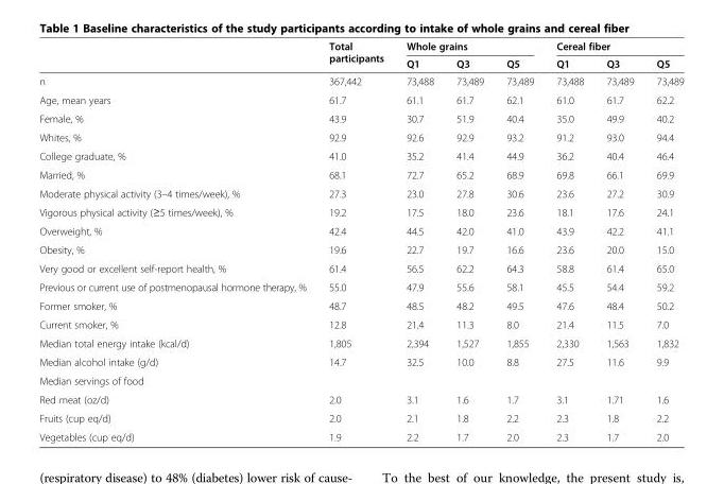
<table><thead><tr><td rowspan="2"></td><td rowspan="2">Total participants</td><td colspan="3">Whole grains</td><td colspan="3">Cereal fiber</td></tr><tr><td>Q1</td><td>Q3</td><td>Q5</td><td>Q1</td><td>Q3</td><td>Q5</td></tr></thead><tbody><tr><td>n</td><td>367,442</td><td>73,488</td><td>73,489</td><td>73,489</td><td>73,488</td><td>73,489</td><td>73,489</td></tr><tr><td>Age, mean years</td><td>61.7</td><td>61.1</td><td>61.7</td><td>62.1</td><td>61.0</td><td>61.7</td><td>62.2</td></tr><tr><td>Female, %</td><td>43.9</td><td>30.7</td><td>51.9</td><td>40.4</td><td>35.0</td><td>49.9</td><td>40.2</td></tr><tr><td>Whites, %</td><td>92.9</td><td>92.6</td><td>92.9</td><td>93.2</td><td>91.2</td><td>93.0</td><td>94.4</td></tr><tr><td>College graduate, %</td><td>41.0</td><td>35.2</td><td>41.4</td><td>44.9</td><td>36.2</td><td>40.4</td><td>46.4</td></tr><tr><td>Married, %</td><td>68.1</td><td>72.7</td><td>65.2</td><td>68.9</td><td>69.8</td><td>66.1</td><td>69.9</td></tr><tr><td>Moderate physical activity (3–4 times/week), %</td><td>27.3</td><td>23.0</td><td>27.8</td><td>30.6</td><td>23.6</td><td>27.2</td><td>30.9</td></tr><tr><td>Vigorous physical activity (≥5 times/week), %</td><td>19.2</td><td>17.5</td><td>18.0</td><td>23.6</td><td>18.1</td><td>17.6</td><td>24.1</td></tr><tr><td>Overweight, %</td><td>42.4</td><td>44.5</td><td>42.0</td><td>41.0</td><td>43.9</td><td>42.2</td><td>41.1</td></tr><tr><td>Obesity, %</td><td>19.6</td><td>22.7</td><td>19.7</td><td>16.6</td><td>23.6</td><td>20.0</td><td>15.0</td></tr><tr><td>Very good or excellent self-report health, %</td><td>61.4</td><td>56.5</td><td>62.2</td><td>64.3</td><td>58.8</td><td>61.4</td><td>65.0</td></tr><tr><td>Previous or current use of postmenopausal hormone therapy, %</td><td>55.0</td><td>47.9</td><td>55.6</td><td>58.1</td><td>45.5</td><td>54.4</td><td>59.2</td></tr><tr><td>Former smoker, %</td><td>48.7</td><td>48.5</td><td>48.2</td><td>49.5</td><td>47.6</td><td>48.4</td><td>50.2</td></tr><tr><td>Current smoker, %</td><td>12.8</td><td>21.4</td><td>11.3</td><td>8.0</td><td>21.4</td><td>11.5</td><td>7.0</td></tr><tr><td>Median total energy intake (kcal/d)</td><td>1,805</td><td>2,394</td><td>1,527</td><td>1,855</td><td>2,330</td><td>1,563</td><td>1,832</td></tr><tr><td>Median alcohol intake (g/d)</td><td>14.7</td><td>32.5</td><td>10.0</td><td>8.8</td><td>27.5</td><td>11.6</td><td>9.9</td></tr><tr><td colspan="8">Median servings of food</td></tr><tr><td>Red meat (oz/d)</td><td>2.0</td><td>3.1</td><td>1.6</td><td>1.7</td><td>3.1</td><td>1.71</td><td>1.6</td></tr><tr><td>Fruits (cup eq/d)</td><td>2.0</td><td>2.1</td><td>1.8</td><td>2.2</td><td>2.3</td><td>1.8</td><td>2.2</td></tr><tr><td>Vegetables (cup eq/d)</td><td>1.9</td><td>2.2</td><td>1.7</td><td>2.0</td><td>2.3</td><td>1.7</td><td>2.0</td></tr></tbody></table>